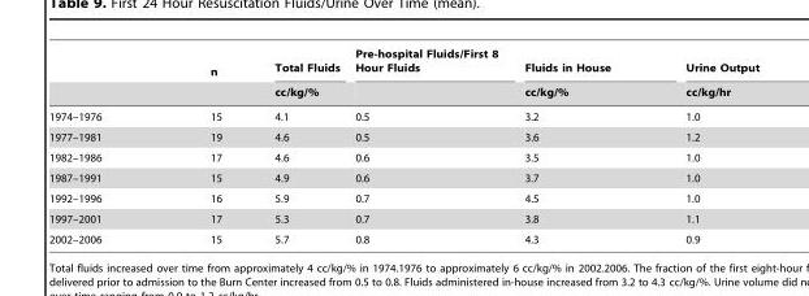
<table><thead><tr><td rowspan="2"></td><td rowspan="2">n</td><td rowspan="2">Total Fluids cc/kg/%</td><td rowspan="2">Pre-hospital Fluids/First 8 Hour Fluids</td><td rowspan="2">Fluids in House cc/kg/%</td><td rowspan="2">Urine Output cc/kg/hr</td></tr><tr></tr></thead><tbody><tr><td>1974–1976</td><td>15</td><td>4.1</td><td>0.5</td><td>3.2</td><td>1.0</td></tr><tr><td>1977–1981</td><td>19</td><td>4.6</td><td>0.5</td><td>3.6</td><td>1.2</td></tr><tr><td>1982–1986</td><td>17</td><td>4.6</td><td>0.6</td><td>3.5</td><td>1.0</td></tr><tr><td>1987–1991</td><td>15</td><td>4.9</td><td>0.6</td><td>3.7</td><td>1.0</td></tr><tr><td>1992–1996</td><td>16</td><td>5.9</td><td>0.7</td><td>4.5</td><td>1.0</td></tr><tr><td>1997–2001</td><td>17</td><td>5.3</td><td>0.7</td><td>3.8</td><td>1.1</td></tr><tr><td>2002–2006</td><td>15</td><td>5.7</td><td>0.8</td><td>4.3</td><td>0.9</td></tr></tbody></table>